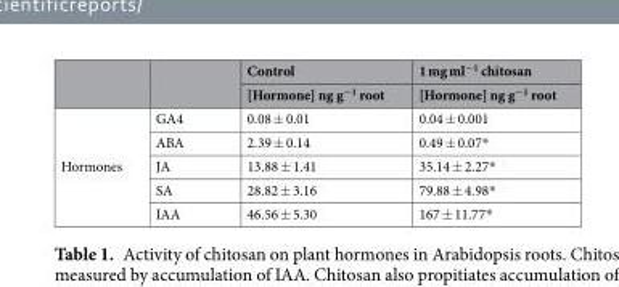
<table><thead><tr><td rowspan="2"></td><td rowspan="2"></td><td rowspan="2">Control [Hormone] ng g<sup>−1</sup> root</td><td rowspan="2">1 mg ml<sup>−1</sup> chitosan [Hormone] ng g<sup>−1</sup> root</td></tr><tr></tr></thead><tbody><tr><td rowspan="5">Hormones</td><td>GA4</td><td>0.08 ± 0.01</td><td>0.04 ± 0.001</td></tr><tr><td>ABA</td><td>2.39 ± 0.14</td><td>0.49 ± 0.07*</td></tr><tr><td>JA</td><td>13.88 ± 1.41</td><td>35.14 ± 2.27*</td></tr><tr><td>SA</td><td>28.82 ± 3.16</td><td>79.88 ± 4.98*</td></tr><tr><td>IAA</td><td>46.56 ± 5.30</td><td>167 ± 11.77*</td></tr></tbody></table>